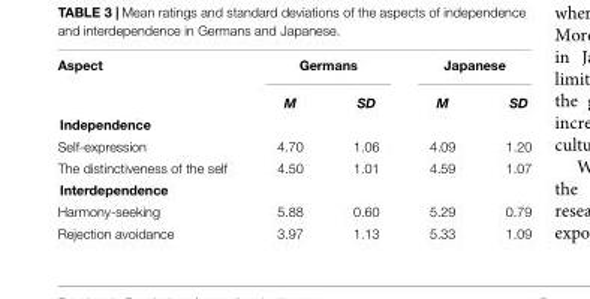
<table><thead><tr><td rowspan="2">Aspect</td><td colspan="2">Germans</td><td colspan="2">Japanese</td></tr><tr><td>M</td><td>SD</td><td>M</td><td>SD</td></tr></thead><tbody><tr><td colspan="5">Independence</td></tr><tr><td>Self-expression</td><td>4.70</td><td>1.06</td><td>4.09</td><td>1.20</td></tr><tr><td>The distinctiveness of the self</td><td>4.50</td><td>1.01</td><td>4.59</td><td>1.07</td></tr><tr><td colspan="5">Interdependence</td></tr><tr><td>Harmony-seeking</td><td>5.88</td><td>0.60</td><td>5.29</td><td>0.79</td></tr><tr><td>Rejection avoidance</td><td>3.97</td><td>1.13</td><td>5.33</td><td>1.09</td></tr></tbody></table>